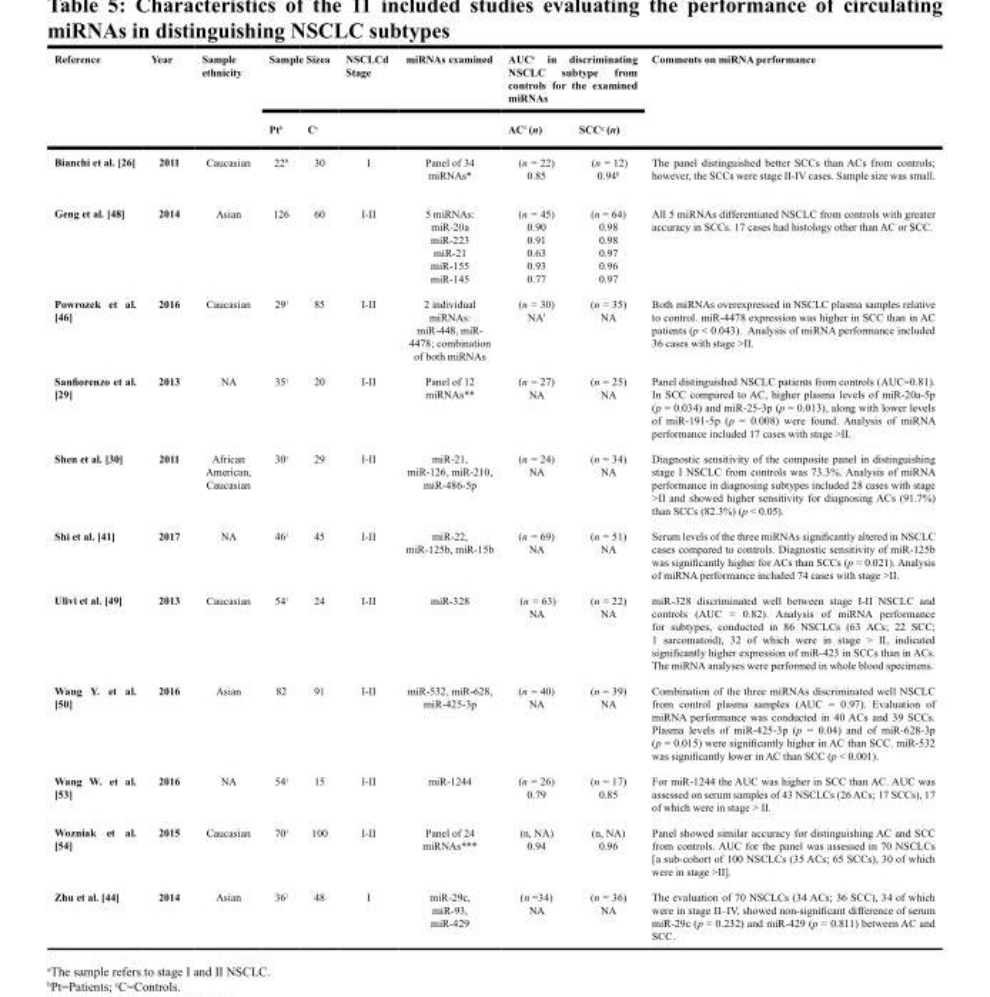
<table><thead><tr><td rowspan="2">Reference</td><td rowspan="2">Year</td><td rowspan="2">Sample ethnicity</td><td colspan="2">Sample Sizea</td><td rowspan="2">NSCLCd Stage</td><td rowspan="2">miRNAs examined</td><td colspan="2">AUC<sup>e</sup> in discriminating NSCLC subtype from controls for the examined miRNAs</td><td rowspan="2">Comments on miRNA performance</td></tr><tr><td>Pt<sup>b</sup></td><td>C<sup>c</sup></td><td>AC<sup>f</sup> (n)</td><td>SCC<sup>g</sup> (n)</td></tr></thead><tbody><tr><td>Bianchi et al. [26]</td><td>2011</td><td>Caucasian</td><td>22<sup>h</sup></td><td>30</td><td>I</td><td>Panel of 34 miRNAs*</td><td>(n = 22) 0.85</td><td>(n = 12) 0.94<sup>h</sup></td><td>The panel distinguished better SCCs than ACs from controls; however, the SCCs were stage II-IV cases. Sample size was small.</td></tr><tr><td>Geng et al. [48]</td><td>2014</td><td>Asian</td><td>126</td><td>60</td><td>I-II</td><td>5 miRNAs: miR-20a miR-223 miR-21 miR-155 miR-145</td><td>(n = 45) 0.90 0.91 0.63 0.93 0.77</td><td>(n = 64) 0.98 0.98 0.97 0.96 0.97</td><td>All 5 miRNAs differentiated NSCLC from controls with greater accuracy in SCCs. 17 cases had histology other than AC or SCC.</td></tr><tr><td>Powrozek et al. [46]</td><td>2016</td><td>Caucasian</td><td>29<sup>i</sup></td><td>85</td><td>I-II</td><td>2 individual miRNAs: miR-448, miR- 4478; combination of both miRNAs</td><td>(n = 30) NA<sup>l</sup></td><td>(n = 35) NA</td><td>Both miRNAs overexpressed in NSCLC plasma samples relative to control. miR-4478 expression was higher in SCC than in AC patients (p &lt; 0.043). Analysis of miRNA performance included 36 cases with stage &gt;II.</td></tr><tr><td>Sanfiorenzo et al. [29]</td><td>2013</td><td>NA</td><td>35<sup>i</sup></td><td>20</td><td>I-II</td><td>Panel of 12 miRNAs**</td><td>(n = 27) NA</td><td>(n = 25) NA</td><td>Panel distinguished NSCLC patients from controls (AUC=0.81). In SCC compared to AC, higher plasma levels of miR-20a-5p (p = 0.034) and miR-25-3p (p = 0.013), along with lower levels of miR-191-5p (p = 0.008) were found. Analysis of miRNA performance included 17 cases with stage &gt;II.</td></tr><tr><td>Shen et al. [30]</td><td>2011</td><td>African American, Caucasian</td><td>30<sup>i</sup></td><td>29</td><td>I-II</td><td>miR-21, miR-126, miR-210, miR-486-5p</td><td>(n = 24) NA</td><td>(n = 34) NA</td><td>Diagnostic sensitivity of the composite panel in distinguishing stage I NSCLC from controls was 73.3%. Analysis of miRNA performance in diagnosing subtypes included 28 cases with stage &gt;II and showed higher sensitivity for diagnosing ACs (91.7%) than SCCs (82.3%) (p &lt; 0.05).</td></tr><tr><td>Shi et al. [41]</td><td>2017</td><td>NA</td><td>46<sup>i</sup></td><td>45</td><td>I-II</td><td>miR-22, miR-125b, miR-15b</td><td>(n = 69) NA</td><td>(n = 51) NA</td><td>Serum levels of the three miRNAs significantly altered in NSCLC cases compared to controls. Diagnostic sensitivity of miR-125b was significantly higher for ACs than SCCs (p = 0.021). Analysis of miRNA performance included 74 cases with stage &gt;II.</td></tr><tr><td>Ulivi et al. [49]</td><td>2013</td><td>Caucasian</td><td>54<sup>i</sup></td><td>24</td><td>I-II</td><td>miR-328</td><td>(n = 63) NA</td><td>(n = 22) NA</td><td>miR-328 discriminated well between stage I-II NSCLC and controls (AUC = 0.82). Analysis of miRNA performance for subtypes, conducted in 86 NSCLCs (63 ACs; 22 SCC; 1 sarcomatoid), 32 of which were in stage &gt; II, indicated significantly higher expression of miR-423 in SCCs than in ACs. The miRNA analyses were performed in whole blood specimens.</td></tr><tr><td>Wang Y. et al. [50]</td><td>2016</td><td>Asian</td><td>82</td><td>91</td><td>I-II</td><td>miR-532, miR-628, miR-425-3p</td><td>(n = 40) NA</td><td>(n = 39) NA</td><td>Combination of the three miRNAs discriminated well NSCLC from control plasma samples (AUC = 0.97). Evaluation of miRNA performance was conducted in 40 ACs and 39 SCCs. Plasma levels of miR-425-3p (p = 0.04) and of miR-628-3p (p = 0.015) were significantly higher in AC than SCC. miR-532 was significantly lower in AC than SCC (p &lt; 0.001).</td></tr><tr><td>Wang W. et al. [53]</td><td>2016</td><td>NA</td><td>54<sup>i</sup></td><td>15</td><td>I-II</td><td>miR-1244</td><td>(n = 26) 0.79</td><td>(n = 17) 0.85</td><td>For miR-1244 the AUC was higher in SCC than AC. AUC was assessed on serum samples of 43 NSCLCs (26 ACs; 17 SCCs), 17 of which were in stage &gt; II.</td></tr><tr><td>Wozniak et al. [54]</td><td>2015</td><td>Caucasian</td><td>70<sup>i</sup></td><td>100</td><td>I-II</td><td>Panel of 24 miRNAs***</td><td>(n, NA) 0.94</td><td>(n, NA) 0.96</td><td>Panel showed similar accuracy for distinguishing AC and SCC from controls. AUC for the panel was assessed in 70 NSCLCs [a sub-cohort of 100 NSCLCs (35 ACs; 65 SCCs), 30 of which were in stage &gt;II].</td></tr><tr><td>Zhu et al. [44]</td><td>2014</td><td>Asian</td><td>36<sup>i</sup></td><td>48</td><td>I</td><td>miR-29c, miR-93, miR-429</td><td>(n =34) NA</td><td>(n = 36) NA</td><td>The evaluation of 70 NSCLCs (34 ACs; 36 SCC), 34 of which were in stage II–IV, showed non-significant difference of serum miR-29c (p = 0.232) and miR-429 (p = 0.811) between AC and SCC.</td></tr></tbody></table>